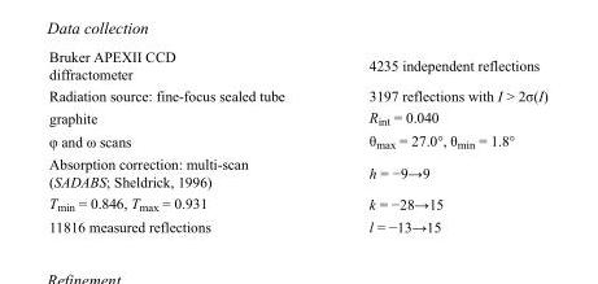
<table><tbody><tr><td>Bruker APEXII CCD diffractometer</td><td>4235 independent reflections</td></tr><tr><td>Radiation source: fine-focus sealed tube</td><td>3197 reflections with I &gt; 2σ(I)</td></tr><tr><td>graphite</td><td>R<sub>int</sub> = 0.040</td></tr><tr><td>φ and ω scans</td><td>θ<sub>max</sub> = 27.0°, θ<sub>min</sub> = 1.8°</td></tr><tr><td>Absorption correction: multi-scan (SADABS; Sheldrick, 1996)</td><td>h = −9→9</td></tr><tr><td>T<sub>min</sub> = 0.846, T<sub>max</sub> = 0.931</td><td>k = −28→15</td></tr><tr><td>11816 measured reflections</td><td>l = −13→15</td></tr></tbody></table>